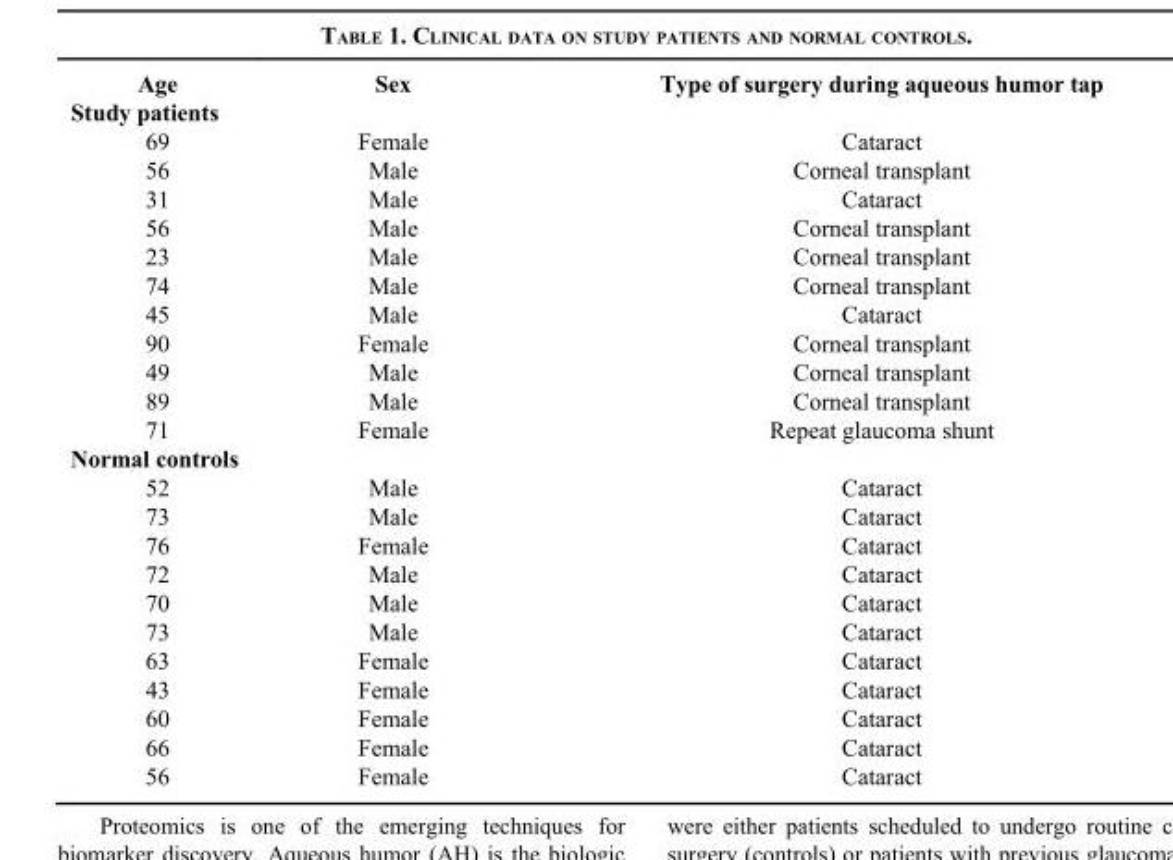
<table><thead><tr><td>Age</td><td>Sex</td><td>Type of surgery during aqueous humor tap</td></tr></thead><tbody><tr><td colspan="3">Study patients</td></tr><tr><td>69</td><td>Female</td><td>Cataract</td></tr><tr><td>56</td><td>Male</td><td>Corneal transplant</td></tr><tr><td>31</td><td>Male</td><td>Cataract</td></tr><tr><td>56</td><td>Male</td><td>Corneal transplant</td></tr><tr><td>23</td><td>Male</td><td>Corneal transplant</td></tr><tr><td>74</td><td>Male</td><td>Corneal transplant</td></tr><tr><td>45</td><td>Male</td><td>Cataract</td></tr><tr><td>90</td><td>Female</td><td>Corneal transplant</td></tr><tr><td>49</td><td>Male</td><td>Corneal transplant</td></tr><tr><td>89</td><td>Male</td><td>Corneal transplant</td></tr><tr><td>71</td><td>Female</td><td>Repeat glaucoma shunt</td></tr><tr><td colspan="3">Normal controls</td></tr><tr><td>52</td><td>Male</td><td>Cataract</td></tr><tr><td>73</td><td>Male</td><td>Cataract</td></tr><tr><td>76</td><td>Female</td><td>Cataract</td></tr><tr><td>72</td><td>Male</td><td>Cataract</td></tr><tr><td>70</td><td>Male</td><td>Cataract</td></tr><tr><td>73</td><td>Male</td><td>Cataract</td></tr><tr><td>63</td><td>Female</td><td>Cataract</td></tr><tr><td>43</td><td>Female</td><td>Cataract</td></tr><tr><td>60</td><td>Female</td><td>Cataract</td></tr><tr><td>66</td><td>Female</td><td>Cataract</td></tr><tr><td>56</td><td>Female</td><td>Cataract</td></tr></tbody></table>